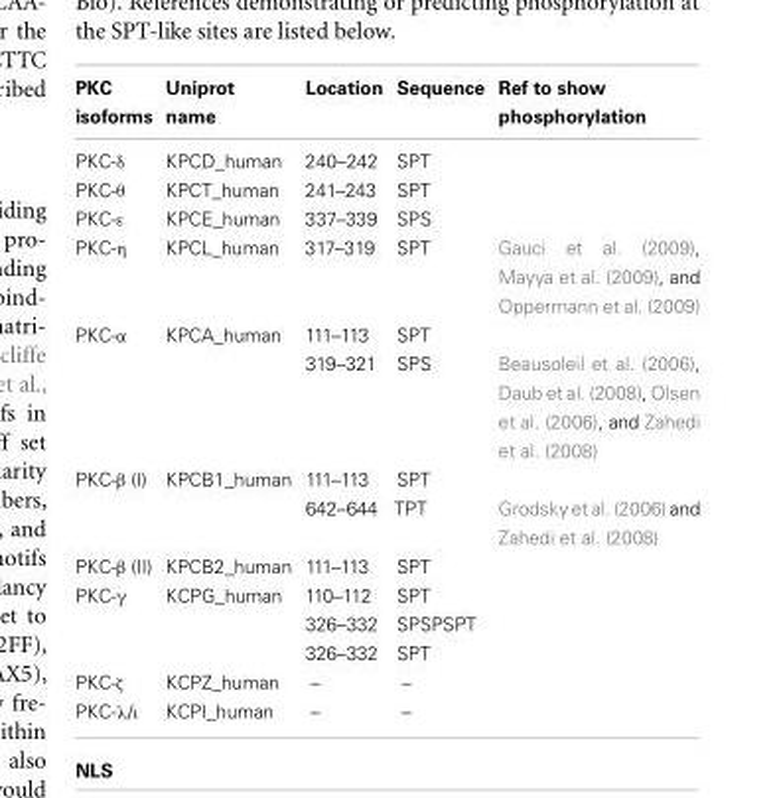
<table><thead><tr><td>PKC isoforms</td><td>Uniprot name</td><td>Location</td><td>Sequence</td><td>Ref to show phosphorylation</td></tr></thead><tbody><tr><td>PKC-δ</td><td>KPCD_human</td><td>240–242</td><td>SPT</td><td></td></tr><tr><td>PKC-θ</td><td>KPCT_human</td><td>241–243</td><td>SPT</td><td></td></tr><tr><td>PKC-ε</td><td>KPCE_human</td><td>337–339</td><td>SPS</td><td></td></tr><tr><td>PKC-η</td><td>KPCL_human</td><td>317–319</td><td>SPT</td><td>Gauci et al. (2009), Mayya et al. (2009), and Oppermann et al. (2009)</td></tr><tr><td rowspan="2">PKC-α</td><td>KPCA_human</td><td>111–113</td><td>SPT</td><td></td></tr><tr><td></td><td>319–321</td><td>SPS</td><td>Beausoleil et al. (2006), Daub et al. (2008), Olsen et al. (2006), and Zahedi et al. (2008)</td></tr><tr><td rowspan="2">PKC-β (I)</td><td>KPCB1_human</td><td>111–113</td><td>SPT</td><td></td></tr><tr><td></td><td>642–644</td><td>TPT</td><td>Grodsky et al. (2006) and Zahedi et al. (2008)</td></tr><tr><td>PKC-β (II)</td><td>KPCB2_human</td><td>111–113</td><td>SPT</td><td></td></tr><tr><td rowspan="3">PKC-γ</td><td>KCPG_human</td><td>110–112</td><td>SPT</td><td></td></tr><tr><td></td><td>326–332</td><td>SPSPSPT</td><td></td></tr><tr><td></td><td>326–332</td><td>SPT</td><td></td></tr><tr><td>PKC-ζ</td><td>KCPZ_human</td><td>–</td><td>–</td><td></td></tr><tr><td>PKC-λ/ι</td><td>KCPI_human</td><td>–</td><td>–</td><td></td></tr></tbody></table>